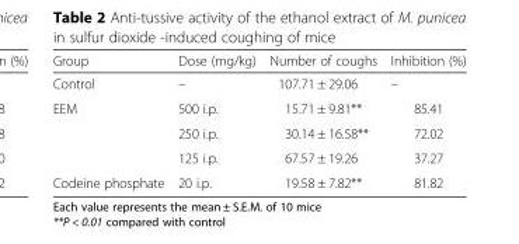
<table><thead><tr><td>Group</td><td>Dose (mg/kg)</td><td>Number of coughs</td><td>Inhibition (%)</td></tr></thead><tbody><tr><td>Control</td><td>–</td><td>107.71 ± 29.06</td><td>–</td></tr><tr><td rowspan="3">EEM</td><td>500 i.p.</td><td>15.71 ± 9.81**</td><td>85.41</td></tr><tr><td>250 i.p.</td><td>30.14 ± 16.58**</td><td>72.02</td></tr><tr><td>125 i.p.</td><td>67.57 ± 19.26</td><td>37.27</td></tr><tr><td>Codeine phosphate</td><td>20 i.p.</td><td>19.58 ± 7.82**</td><td>81.82</td></tr></tbody></table>